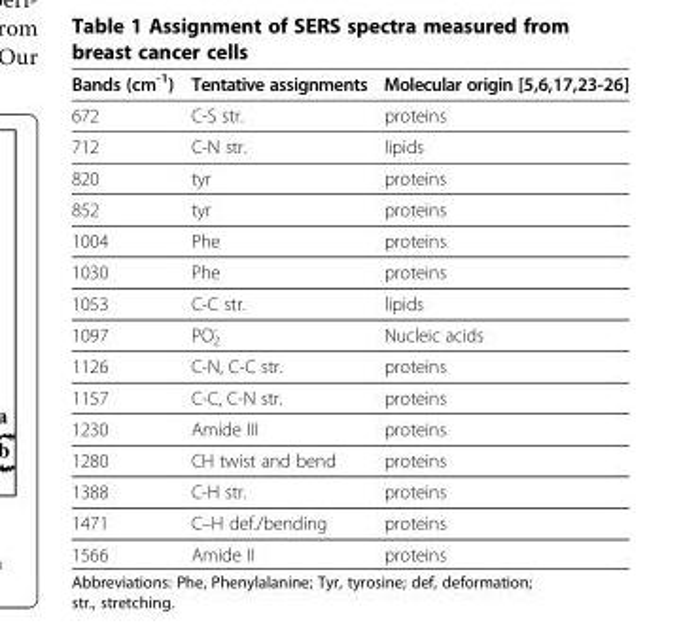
<table><thead><tr><td>Bands (cm<sup>-1</sup>)</td><td>Tentative assignments</td><td>Molecular origin [5,6,17,23-26]</td></tr></thead><tbody><tr><td>672</td><td>C-S str.</td><td>proteins</td></tr><tr><td>712</td><td>C-N str.</td><td>lipids</td></tr><tr><td>820</td><td>tyr</td><td>proteins</td></tr><tr><td>852</td><td>tyr</td><td>proteins</td></tr><tr><td>1004</td><td>Phe</td><td>proteins</td></tr><tr><td>1030</td><td>Phe</td><td>proteins</td></tr><tr><td>1053</td><td>C-C str.</td><td>lipids</td></tr><tr><td>1097</td><td>PO<sub>2</sub> <sup>-</sup></td><td>Nucleic acids</td></tr><tr><td>1126</td><td>C-N, C-C str.</td><td>proteins</td></tr><tr><td>1157</td><td>C-C, C-N str.</td><td>proteins</td></tr><tr><td>1230</td><td>Amide III</td><td>proteins</td></tr><tr><td>1280</td><td>CH twist and bend</td><td>proteins</td></tr><tr><td>1388</td><td>C-H str.</td><td>proteins</td></tr><tr><td>1471</td><td>C–H def./bending</td><td>proteins</td></tr><tr><td>1566</td><td>Amide II</td><td>proteins</td></tr></tbody></table>